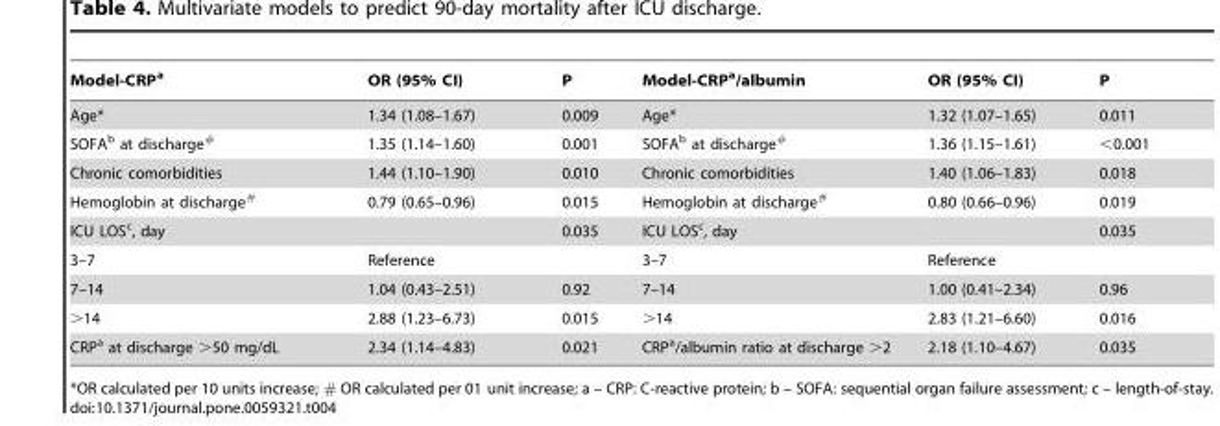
<table><thead><tr><td>Model-CRP<sup>a</sup></td><td>OR (95% CI)</td><td>P</td><td>Model-CRP<sup>a</sup>/albumin</td><td>OR (95% CI)</td><td>P</td></tr></thead><tbody><tr><td>Age*</td><td>1.34 (1.08–1.67)</td><td>0.009</td><td>Age*</td><td>1.32 (1.07–1.65)</td><td>0.011</td></tr><tr><td>SOFA<sup>b</sup> at discharge<sup>#</sup></td><td>1.35 (1.14–1.60)</td><td>0.001</td><td>SOFA<sup>b</sup> at discharge<sup>#</sup></td><td>1.36 (1.15–1.61)</td><td>&lt;0.001</td></tr><tr><td>Chronic comorbidities</td><td>1.44 (1.10–1.90)</td><td>0.010</td><td>Chronic comorbidities</td><td>1.40 (1.06–1.83)</td><td>0.018</td></tr><tr><td>Hemoglobin at discharge<sup>#</sup></td><td>0.79 (0.65–0.96)</td><td>0.015</td><td>Hemoglobin at discharge<sup>#</sup></td><td>0.80 (0.66–0.96)</td><td>0.019</td></tr><tr><td>ICU LOS<sup>c</sup>, day</td><td></td><td>0.035</td><td>ICU LOS<sup>c</sup>, day</td><td></td><td>0.035</td></tr><tr><td>3–7</td><td>Reference</td><td></td><td>3–7</td><td>Reference</td><td></td></tr><tr><td>7–14</td><td>1.04 (0.43–2.51)</td><td>0.92</td><td>7–14</td><td>1.00 (0.41–2.34)</td><td>0.96</td></tr><tr><td>&gt;14</td><td>2.88 (1.23–6.73)</td><td>0.015</td><td>&gt;14</td><td>2.83 (1.21–6.60)</td><td>0.016</td></tr><tr><td>CRP<sup>a</sup> at discharge &gt;50 mg/dL</td><td>2.34 (1.14–4.83)</td><td>0.021</td><td>CRP<sup>a</sup>/albumin ratio at discharge &gt;2</td><td>2.18 (1.10–4.67)</td><td>0.035</td></tr></tbody></table>